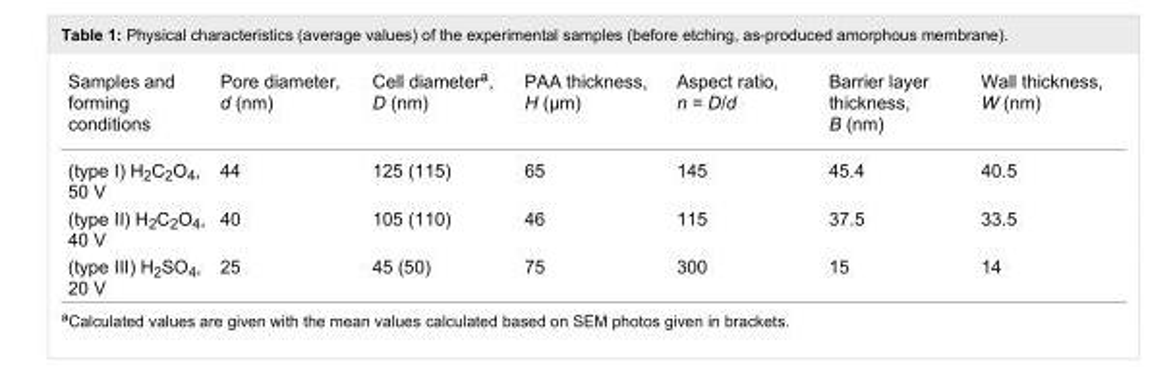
<table><tbody><tr><td>Samples and forming conditions</td><td>Pore diameter, d (nm)</td><td>Cell diameter<sup>a</sup>, D (nm)</td><td>PAA thickness, H (µm)</td><td>Aspect ratio, n = D/d</td><td>Barrier layer thickness, В (nm)</td><td>Wall thickness, W (nm)</td></tr><tr><td>(type I) H<sub>2</sub>C<sub>2</sub>O<sub>4</sub>, 50 V</td><td>44</td><td>125 (115)</td><td>65</td><td>145</td><td>45.4</td><td>40.5</td></tr><tr><td>(type II) H<sub>2</sub>C<sub>2</sub>O<sub>4</sub>, 40 V</td><td>40</td><td>105 (110)</td><td>46</td><td>115</td><td>37.5</td><td>33.5</td></tr><tr><td>(type III) H<sub>2</sub>SO<sub>4</sub>, 20 V</td><td>25</td><td>45 (50)</td><td>75</td><td>300</td><td>15</td><td>14</td></tr></tbody></table>